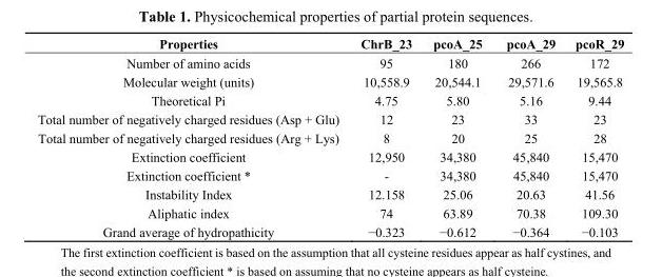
<table><thead><tr><td>Properties</td><td>ChrB_23</td><td>pcoA_25</td><td>pcoA_29</td><td>pcoR_29</td></tr></thead><tbody><tr><td>Number of amino acids</td><td>95</td><td>180</td><td>266</td><td>172</td></tr><tr><td>Molecular weight (units)</td><td>10,558.9</td><td>20,544.1</td><td>29,571.6</td><td>19,565.8</td></tr><tr><td>Theoretical Pi</td><td>4.75</td><td>5.80</td><td>5.16</td><td>9.44</td></tr><tr><td>Total number of negatively charged residues (Asp + Glu)</td><td>12</td><td>23</td><td>33</td><td>23</td></tr><tr><td>Total number of negatively charged residues (Arg + Lys)</td><td>8</td><td>20</td><td>25</td><td>28</td></tr><tr><td>Extinction coefficient</td><td>12,950</td><td>34,380</td><td>45,840</td><td>15,470</td></tr><tr><td>Extinction coefficient *</td><td>-</td><td>34,380</td><td>45,840</td><td>15,470</td></tr><tr><td>Instability Index</td><td>12.158</td><td>25.06</td><td>20.63</td><td>41.56</td></tr><tr><td>Aliphatic index</td><td>74</td><td>63.89</td><td>70.38</td><td>109.30</td></tr><tr><td>Grand average of hydropathicity</td><td>−0.323</td><td>−0.612</td><td>−0.364</td><td>−0.103</td></tr></tbody></table>